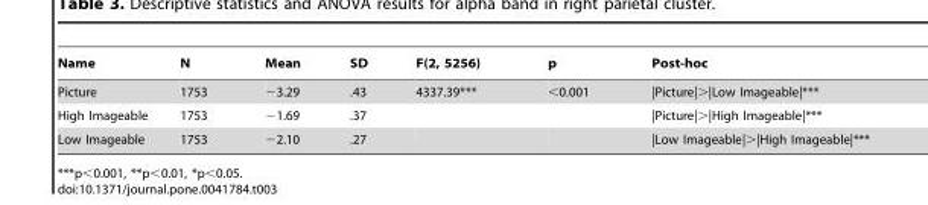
<table><thead><tr><td>Name</td><td>N</td><td>Mean</td><td>SD</td><td>F(2, 5256)</td><td>p</td><td>Post-hoc</td></tr></thead><tbody><tr><td>Picture</td><td>1753</td><td>−3.29</td><td>.43</td><td>4337.39***</td><td>&lt;0.001</td><td>|Picture|&gt;|Low Imageable|***</td></tr><tr><td>High Imageable</td><td>1753</td><td>−1.69</td><td>.37</td><td></td><td></td><td>|Picture|&gt;|High Imageable|***</td></tr><tr><td>Low Imageable</td><td>1753</td><td>−2.10</td><td>.27</td><td></td><td></td><td>|Low Imageable|&gt;|High Imageable|***</td></tr></tbody></table>